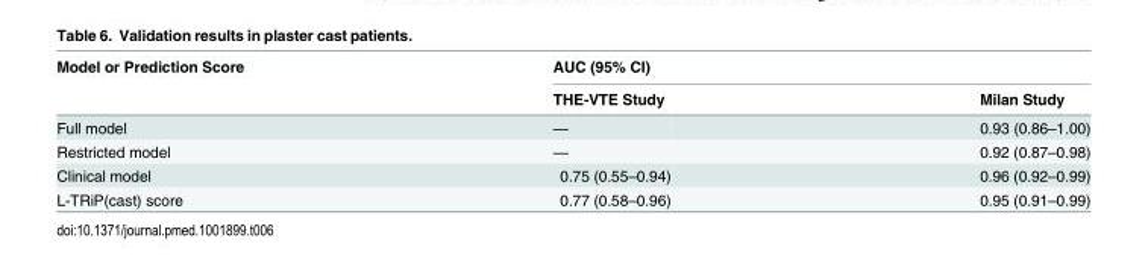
<table><thead><tr><td rowspan="2">Model or Prediction Score</td><td colspan="2">AUC (95% CI)</td></tr><tr><td>THE-VTE Study</td><td>Milan Study</td></tr></thead><tbody><tr><td>Full model</td><td>—</td><td>0.93 (0.86–1.00)</td></tr><tr><td>Restricted model</td><td>—</td><td>0.92 (0.87–0.98)</td></tr><tr><td>Clinical model</td><td>0.75 (0.55–0.94)</td><td>0.96 (0.92–0.99)</td></tr><tr><td>L-TRiP(cast) score</td><td>0.77 (0.58–0.96)</td><td>0.95 (0.91–0.99)</td></tr></tbody></table>